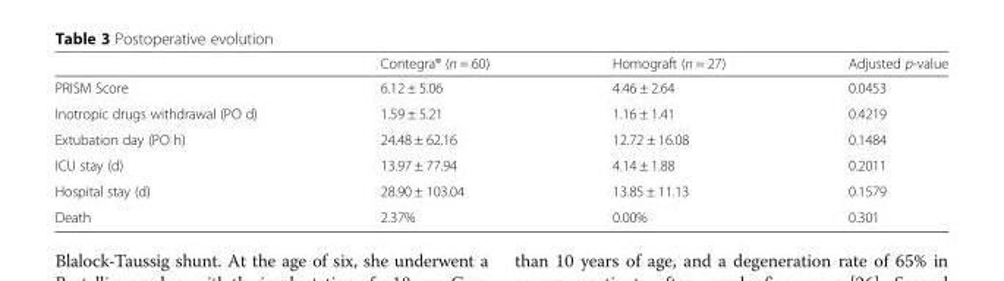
<table><thead><tr><td></td><td>Contegra® (n = 60)</td><td>Homograft (n = 27)</td><td>Adjusted p-value</td></tr></thead><tbody><tr><td>PRISM Score</td><td>6.12 ± 5.06</td><td>4.46 ± 2.64</td><td>0.0453</td></tr><tr><td>Inotropic drugs withdrawal (PO d)</td><td>1.59 ± 5.21</td><td>1.16 ± 1.41</td><td>0.4219</td></tr><tr><td>Extubation day (PO h)</td><td>24.48 ± 62.16</td><td>12.72 ± 16.08</td><td>0.1484</td></tr><tr><td>ICU stay (d)</td><td>13.97 ± 77.94</td><td>4.14 ± 1.88</td><td>0.2011</td></tr><tr><td>Hospital stay (d)</td><td>28.90 ± 103.04</td><td>13.85 ± 11.13</td><td>0.1579</td></tr><tr><td>Death</td><td>2.37%</td><td>0.00%</td><td>0.301</td></tr></tbody></table>